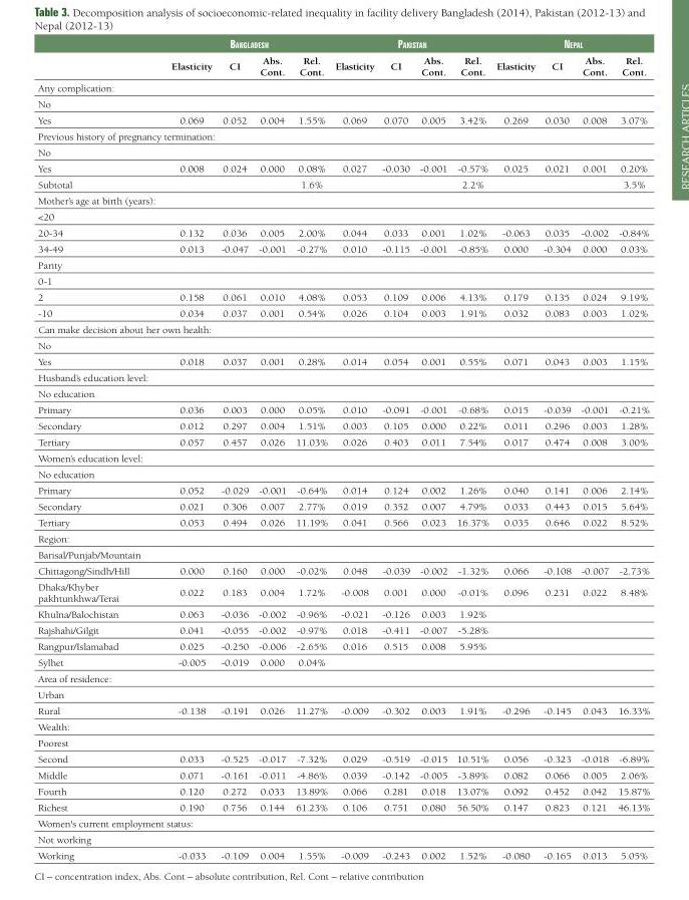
<table><thead><tr><td rowspan="2"></td><td colspan="4">Bangladesh</td><td colspan="4">Pakistan</td><td colspan="4">nePal</td></tr><tr><td>Elasticity</td><td>CI</td><td>Abs. Cont.</td><td>Rel. Cont.</td><td>Elasticity</td><td>CI</td><td>Abs. Cont.</td><td>Rel. Cont.</td><td>Elasticity</td><td>CI</td><td>Abs. Cont.</td><td>Rel. Cont.</td></tr></thead><tbody><tr><td colspan="13">Any complication:</td></tr><tr><td colspan="13">No</td></tr><tr><td>Yes</td><td>0.069</td><td>0.052</td><td>0.004</td><td>1.55%</td><td>0.069</td><td>0.070</td><td>0.005</td><td>3.42%</td><td>0.269</td><td>0.030</td><td>0.008</td><td>3.07%</td></tr><tr><td colspan="13">Previous history of pregnancy termination:</td></tr><tr><td colspan="13">No</td></tr><tr><td>Yes</td><td>0.008</td><td>0.024</td><td>0.000</td><td>0.08%</td><td>0.027</td><td>-0.030</td><td>-0.001</td><td>-0.57%</td><td>0.025</td><td>0.021</td><td>0.001</td><td>0.20%</td></tr><tr><td>Subtotal</td><td></td><td></td><td></td><td>1.6%</td><td></td><td></td><td></td><td>2.2%</td><td></td><td></td><td></td><td>3.5%</td></tr><tr><td colspan="13">Mother’s age at birth (years):</td></tr><tr><td colspan="13">&lt;20</td></tr><tr><td>20-34</td><td>0.132</td><td>0.036</td><td>0.005</td><td>2.00%</td><td>0.044</td><td>0.033</td><td>0.001</td><td>1.02%</td><td>-0.063</td><td>0.035</td><td>-0.002</td><td>-0.84%</td></tr><tr><td>34-49</td><td>0.013</td><td>-0.047</td><td>-0.001</td><td>-0.27%</td><td>0.010</td><td>-0.115</td><td>-0.001</td><td>-0.85%</td><td>0.000</td><td>-0.304</td><td>0.000</td><td>0.03%</td></tr><tr><td colspan="13">Parity</td></tr><tr><td colspan="13">0-1</td></tr><tr><td>2</td><td>0.158</td><td>0.061</td><td>0.010</td><td>4.08%</td><td>0.053</td><td>0.109</td><td>0.006</td><td>4.13%</td><td>0.179</td><td>0.135</td><td>0.024</td><td>9.19%</td></tr><tr><td>-10</td><td>0.034</td><td>0.037</td><td>0.001</td><td>0.54%</td><td>0.026</td><td>0.104</td><td>0.003</td><td>1.91%</td><td>0.032</td><td>0.083</td><td>0.003</td><td>1.02%</td></tr><tr><td colspan="13">Can make decision about her own health:</td></tr><tr><td colspan="13">No</td></tr><tr><td>Yes</td><td>0.018</td><td>0.037</td><td>0.001</td><td>0.28%</td><td>0.014</td><td>0.054</td><td>0.001</td><td>0.55%</td><td>0.071</td><td>0.043</td><td>0.003</td><td>1.15%</td></tr><tr><td colspan="13">Husband’s education level:</td></tr><tr><td colspan="13">No education</td></tr><tr><td>Primary</td><td>0.036</td><td>0.003</td><td>0.000</td><td>0.05%</td><td>0.010</td><td>-0.091</td><td>-0.001</td><td>-0.68%</td><td>0.015</td><td>-0.039</td><td>-0.001</td><td>-0.21%</td></tr><tr><td>Secondary</td><td>0.012</td><td>0.297</td><td>0.004</td><td>1.51%</td><td>0.003</td><td>0.105</td><td>0.000</td><td>0.22%</td><td>0.011</td><td>0.296</td><td>0.003</td><td>1.28%</td></tr><tr><td>Tertiary</td><td>0.057</td><td>0.457</td><td>0.026</td><td>11.03%</td><td>0.026</td><td>0.403</td><td>0.011</td><td>7.54%</td><td>0.017</td><td>0.474</td><td>0.008</td><td>3.00%</td></tr><tr><td colspan="13">Women’s education level:</td></tr><tr><td colspan="13">No education</td></tr><tr><td>Primary</td><td>0.052</td><td>-0.029</td><td>-0.001</td><td>-0.64%</td><td>0.014</td><td>0.124</td><td>0.002</td><td>1.26%</td><td>0.040</td><td>0.141</td><td>0.006</td><td>2.14%</td></tr><tr><td>Secondary</td><td>0.021</td><td>0.306</td><td>0.007</td><td>2.77%</td><td>0.019</td><td>0.352</td><td>0.007</td><td>4.79%</td><td>0.033</td><td>0.443</td><td>0.015</td><td>5.64%</td></tr><tr><td>Tertiary</td><td>0.053</td><td>0.494</td><td>0.026</td><td>11.19%</td><td>0.041</td><td>0.566</td><td>0.023</td><td>16.37%</td><td>0.035</td><td>0.646</td><td>0.022</td><td>8.52%</td></tr><tr><td colspan="13">Region:</td></tr><tr><td colspan="13">Barisal/Punjab/Mountain</td></tr><tr><td>Chittagong/Sindh/Hill</td><td>0.000</td><td>0.160</td><td>0.000</td><td>-0.02%</td><td>0.048</td><td>-0.039</td><td>-0.002</td><td>-1.32%</td><td>0.066</td><td>-0.108</td><td>-0.007</td><td>-2.73%</td></tr><tr><td>Dhaka/Khyber pakhtunkhwa/Terai</td><td>0.022</td><td>0.183</td><td>0.004</td><td>1.72%</td><td>-0.008</td><td>0.001</td><td>0.000</td><td>-0.01%</td><td>0.096</td><td>0.231</td><td>0.022</td><td>8.48%</td></tr><tr><td>Khulna/Balochistan</td><td>0.063</td><td>-0.036</td><td>-0.002</td><td>-0.96%</td><td>-0.021</td><td>-0.126</td><td>0.003</td><td>1.92%</td><td></td><td></td><td></td><td></td></tr><tr><td>Rajshahi/Gilgit</td><td>0.041</td><td>-0.055</td><td>-0.002</td><td>-0.97%</td><td>0.018</td><td>-0.411</td><td>-0.007</td><td>-5.28%</td><td></td><td></td><td></td><td></td></tr><tr><td>Rangpur/Islamabad</td><td>0.025</td><td>-0.250</td><td>-0.006</td><td>-2.65%</td><td>0.016</td><td>0.515</td><td>0.008</td><td>5.95%</td><td></td><td></td><td></td><td></td></tr><tr><td>Sylhet</td><td>-0.005</td><td>-0.019</td><td>0.000</td><td>0.04%</td><td></td><td></td><td></td><td></td><td></td><td></td><td></td><td></td></tr><tr><td colspan="13">Area of residence:</td></tr><tr><td colspan="13">Urban</td></tr><tr><td>Rural</td><td>-0.138</td><td>-0.191</td><td>0.026</td><td>11.27%</td><td>-0.009</td><td>-0.302</td><td>0.003</td><td>1.91%</td><td>-0.296</td><td>-0.145</td><td>0.043</td><td>16.33%</td></tr><tr><td colspan="13">Wealth:</td></tr><tr><td colspan="13">Poorest</td></tr><tr><td>Second</td><td>0.033</td><td>-0.525</td><td>-0.017</td><td>-7.32%</td><td>0.029</td><td>-0.519</td><td>-0.015</td><td>10.51%</td><td>0.056</td><td>-0.323</td><td>-0.018</td><td>-6.89%</td></tr><tr><td>Middle</td><td>0.071</td><td>-0.161</td><td>-0.011</td><td>-4.86%</td><td>0.039</td><td>-0.142</td><td>-0.005</td><td>-3.89%</td><td>0.082</td><td>0.066</td><td>0.005</td><td>2.06%</td></tr><tr><td>Fourth</td><td>0.120</td><td>0.272</td><td>0.033</td><td>13.89%</td><td>0.066</td><td>0.281</td><td>0.018</td><td>13.07%</td><td>0.092</td><td>0.452</td><td>0.042</td><td>15.87%</td></tr><tr><td>Richest</td><td>0.190</td><td>0.756</td><td>0.144</td><td>61.23%</td><td>0.106</td><td>0.751</td><td>0.080</td><td>56.50%</td><td>0.147</td><td>0.823</td><td>0.121</td><td>46.13%</td></tr><tr><td colspan="13">Women&#x27;s current employment status:</td></tr><tr><td colspan="13">Not working</td></tr><tr><td>Working</td><td>-0.033</td><td>-0.109</td><td>0.004</td><td>1.55%</td><td>-0.009</td><td>-0.243</td><td>0.002</td><td>1.52%</td><td>-0.080</td><td>-0.165</td><td>0.013</td><td>5.05%</td></tr></tbody></table>